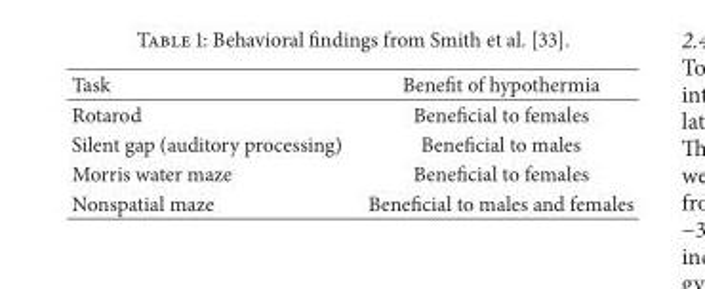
<table><thead><tr><td>Task</td><td>Benefit of hypothermia</td></tr></thead><tbody><tr><td>Rotarod</td><td>Beneficial to females</td></tr><tr><td>Silent gap (auditory processing)</td><td>Beneficial to males</td></tr><tr><td>Morris water maze</td><td>Beneficial to females</td></tr><tr><td>Nonspatial maze</td><td>Beneficial to males and females</td></tr></tbody></table>